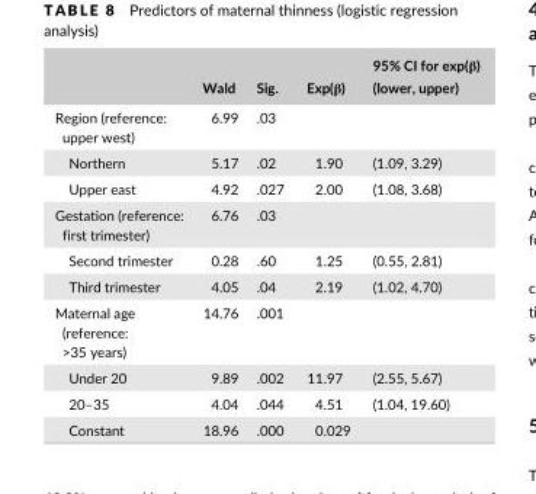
<table><thead><tr><td rowspan="2"></td><td rowspan="2">Wald</td><td rowspan="2">Sig.</td><td rowspan="2">Exp(β)</td><td rowspan="2">95% CI for exp(β) (lower, upper)</td></tr><tr></tr></thead><tbody><tr><td>Region (reference: upper west)</td><td>6.99</td><td>.03</td><td></td><td></td></tr><tr><td>Northern</td><td>5.17</td><td>.02</td><td>1.90</td><td>(1.09, 3.29)</td></tr><tr><td>Upper east</td><td>4.92</td><td>.027</td><td>2.00</td><td>(1.08, 3.68)</td></tr><tr><td>Gestation (reference: first trimester)</td><td>6.76</td><td>.03</td><td></td><td></td></tr><tr><td>Second trimester</td><td>0.28</td><td>.60</td><td>1.25</td><td>(0.55, 2.81)</td></tr><tr><td>Third trimester</td><td>4.05</td><td>.04</td><td>2.19</td><td>(1.02, 4.70)</td></tr><tr><td>Maternal age (reference: &gt;35 years)</td><td>14.76</td><td>.001</td><td></td><td></td></tr><tr><td>Under 20</td><td>9.89</td><td>.002</td><td>11.97</td><td>(2.55, 5.67)</td></tr><tr><td>20–35</td><td>4.04</td><td>.044</td><td>4.51</td><td>(1.04, 19.60)</td></tr><tr><td>Constant</td><td>18.96</td><td>.000</td><td>0.029</td><td></td></tr></tbody></table>